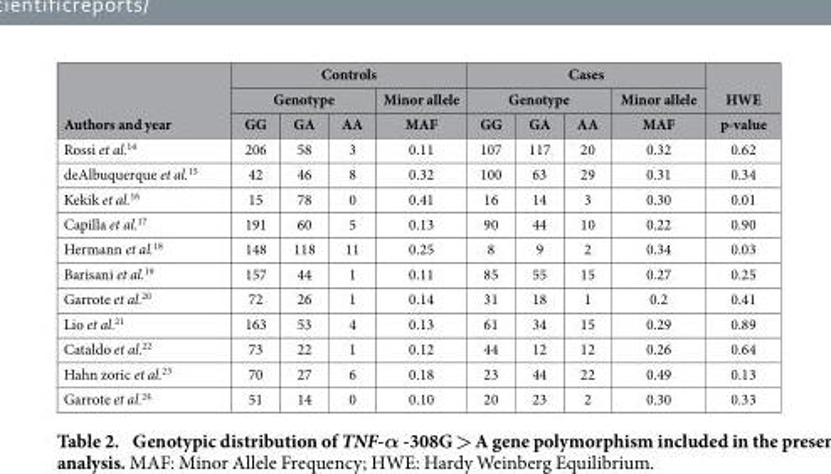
<table><thead><tr><td rowspan="3">Authors and year</td><td colspan="4">Controls</td><td colspan="4">Cases</td><td rowspan="3">HWE p-value</td></tr><tr><td colspan="3">Genotype</td><td rowspan="2">Minor allele MAF</td><td colspan="3">Genotype</td><td rowspan="2">Minor allele MAF</td></tr><tr><td>GG</td><td>GA</td><td>AA</td><td>GG</td><td>GA</td><td>AA</td></tr></thead><tbody><tr><td>Rossi et al.<sup>14</sup></td><td>206</td><td>58</td><td>3</td><td>0.11</td><td>107</td><td>117</td><td>20</td><td>0.32</td><td>0.62</td></tr><tr><td>deAlbuquerque et al.<sup>15</sup></td><td>42</td><td>46</td><td>8</td><td>0.32</td><td>100</td><td>63</td><td>29</td><td>0.31</td><td>0.34</td></tr><tr><td>Kekik et al.<sup>16</sup></td><td>15</td><td>78</td><td>0</td><td>0.41</td><td>16</td><td>14</td><td>3</td><td>0.30</td><td>0.01</td></tr><tr><td>Capilla et al.<sup>17</sup></td><td>191</td><td>60</td><td>5</td><td>0.13</td><td>90</td><td>44</td><td>10</td><td>0.22</td><td>0.90</td></tr><tr><td>Hermann et al.<sup>18</sup></td><td>148</td><td>118</td><td>11</td><td>0.25</td><td>8</td><td>9</td><td>2</td><td>0.34</td><td>0.03</td></tr><tr><td>Barisani et al.<sup>19</sup></td><td>157</td><td>44</td><td>1</td><td>0.11</td><td>85</td><td>55</td><td>15</td><td>0.27</td><td>0.25</td></tr><tr><td>Garrote et al.<sup>20</sup></td><td>72</td><td>26</td><td>1</td><td>0.14</td><td>31</td><td>18</td><td>1</td><td>0.2</td><td>0.41</td></tr><tr><td>Lio et al.<sup>21</sup></td><td>163</td><td>53</td><td>4</td><td>0.13</td><td>61</td><td>34</td><td>15</td><td>0.29</td><td>0.89</td></tr><tr><td>Cataldo et al.<sup>22</sup></td><td>73</td><td>22</td><td>1</td><td>0.12</td><td>44</td><td>12</td><td>12</td><td>0.26</td><td>0.64</td></tr><tr><td>Hahn zoric et al.<sup>23</sup></td><td>70</td><td>27</td><td>6</td><td>0.18</td><td>23</td><td>44</td><td>22</td><td>0.49</td><td>0.13</td></tr><tr><td>Garrote et al.<sup>24</sup></td><td>51</td><td>14</td><td>0</td><td>0.10</td><td>20</td><td>23</td><td>2</td><td>0.30</td><td>0.33</td></tr></tbody></table>